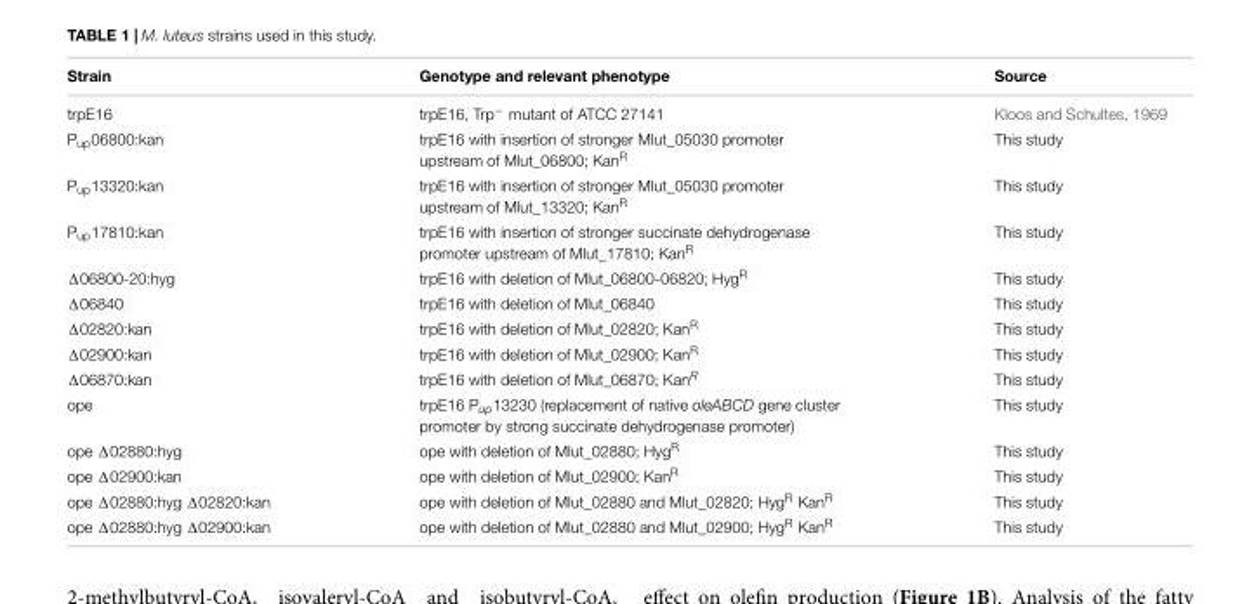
<table><thead><tr><td>Strain</td><td>Genotype and relevant phenotype</td><td>Source</td></tr></thead><tbody><tr><td>trpE16</td><td>trpE16, Trp<sup>−</sup> mutant of ATCC 27141</td><td>Kloos and Schultes, 1969</td></tr><tr><td>P<sub>up</sub>06800:kan</td><td>trpE16 with insertion of stronger Mlut_05030 promoter upstream of Mlut_06800; Kan<sup>R</sup></td><td>This study</td></tr><tr><td>P<sub>up</sub>13320:kan</td><td>trpE16 with insertion of stronger Mlut_05030 promoter upstream of Mlut_13320; Kan<sup>R</sup></td><td>This study</td></tr><tr><td>P<sub>up</sub>17810:kan</td><td>trpE16 with insertion of stronger succinate dehydrogenase promoter upstream of Mlut_17810; Kan<sup>R</sup></td><td>This study</td></tr><tr><td>Δ06800-20:hyg</td><td>trpE16 with deletion of Mlut_06800-06820; Hyg<sup>R</sup></td><td>This study</td></tr><tr><td>Δ06840</td><td>trpE16 with deletion of Mlut_06840</td><td>This study</td></tr><tr><td>Δ02820:kan</td><td>trpE16 with deletion of Mlut_02820; Kan<sup>R</sup></td><td>This study</td></tr><tr><td>Δ02900:kan</td><td>trpE16 with deletion of Mlut_02900; Kan<sup>R</sup></td><td>This study</td></tr><tr><td>Δ06870:kan</td><td>trpE16 with deletion of Mlut_06870; Kan<sup>R</sup></td><td>This study</td></tr><tr><td>ope</td><td>trpE16 P<sub>up</sub>13230 (replacement of native oleABCD gene cluster promoter by strong succinate dehydrogenase promoter)</td><td>This study</td></tr><tr><td>ope Δ02880:hyg</td><td>ope with deletion of Mlut_02880; Hyg<sup>R</sup></td><td>This study</td></tr><tr><td>ope Δ02900:kan</td><td>ope with deletion of Mlut_02900; Kan<sup>R</sup></td><td>This study</td></tr><tr><td>ope Δ02880:hyg Δ02820:kan</td><td>ope with deletion of Mlut_02880 and Mlut_02820; Hyg<sup>R</sup> Kan<sup>R</sup></td><td>This study</td></tr><tr><td>ope Δ02880:hyg Δ02900:kan</td><td>ope with deletion of Mlut_02880 and Mlut_02900; Hyg<sup>R</sup> Kan<sup>R</sup></td><td>This study</td></tr></tbody></table>